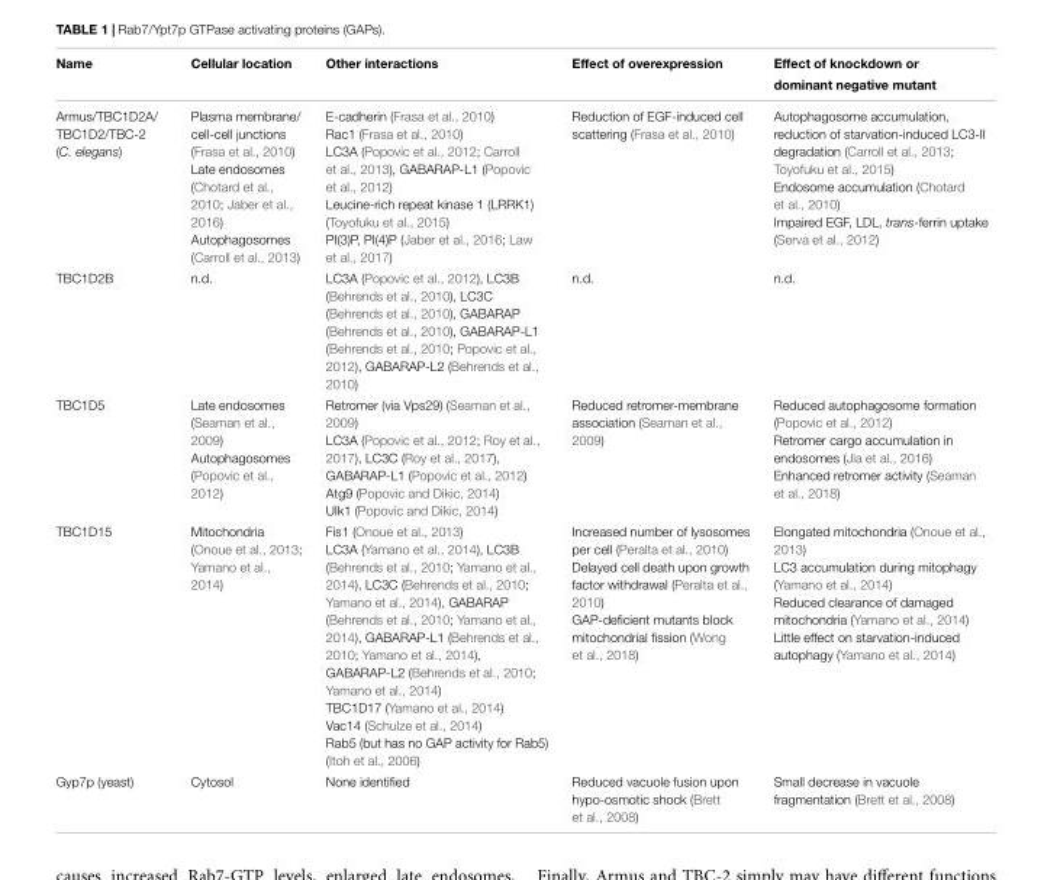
<table><thead><tr><td rowspan="2">Name</td><td rowspan="2">Cellular location</td><td rowspan="2">Other interactions</td><td rowspan="2">Effect of overexpression</td><td rowspan="2">Effect of knockdown or dominant negative mutant</td></tr><tr></tr></thead><tbody><tr><td>Armus/TBC1D2A/ TBC1D2/TBC-2 (C. elegans)</td><td>Plasma membrane/ cell-cell junctions (Frasa et al., 2010) Late endosomes (Chotard et al., 2010; Jaber et al., 2016) Autophagosomes (Carroll et al., 2013)</td><td>E-cadherin (Frasa et al., 2010) Rac1 (Frasa et al., 2010) LC3A (Popovic et al., 2012; Carroll et al., 2013), GABARAP-L1 (Popovic et al., 2012) Leucine-rich repeat kinase 1 (LRRK1) (Toyofuku et al., 2015) PI(3)P, PI(4)P (Jaber et al., 2016; Law et al., 2017)</td><td>Reduction of EGF-induced cell scattering (Frasa et al., 2010)</td><td>Autophagosome accumulation, reduction of starvation-induced LC3-II degradation (Carroll et al., 2013; Toyofuku et al., 2015) Endosome accumulation (Chotard et al., 2010) Impaired EGF, LDL, trans-ferrin uptake (Serva et al., 2012)</td></tr><tr><td>TBC1D2B</td><td>n.d.</td><td>LC3A (Popovic et al., 2012), LC3B (Behrends et al., 2010), LC3C (Behrends et al., 2010), GABARAP (Behrends et al., 2010), GABARAP-L1 (Behrends et al., 2010; Popovic et al., 2012), GABARAP-L2 (Behrends et al., 2010)</td><td>n.d.</td><td>n.d.</td></tr><tr><td>TBC1D5</td><td>Late endosomes (Seaman et al., 2009) Autophagosomes (Popovic et al., 2012)</td><td>Retromer (via Vps29) (Seaman et al., 2009) LC3A (Popovic et al., 2012; Roy et al., 2017), LC3C (Roy et al., 2017), GABARAP-L1 (Popovic et al., 2012) Atg9 (Popovic and Dikic, 2014) Ulk1 (Popovic and Dikic, 2014)</td><td>Reduced retromer-membrane association (Seaman et al., 2009)</td><td>Reduced autophagosome formation (Popovic et al., 2012) Retromer cargo accumulation in endosomes (Jia et al., 2016) Enhanced retromer activity (Seaman et al., 2018)</td></tr><tr><td>TBC1D15</td><td>Mitochondria (Onoue et al., 2013; Yamano et al., 2014)</td><td>Fis1 (Onoue et al., 2013) LC3A (Yamano et al., 2014), LC3B (Behrends et al., 2010; Yamano et al., 2014), LC3C (Behrends et al., 2010; Yamano et al., 2014), GABARAP (Behrends et al., 2010; Yamano et al., 2014), GABARAP-L1 (Behrends et al., 2010; Yamano et al., 2014), GABARAP-L2 (Behrends et al., 2010; Yamano et al., 2014) TBC1D17 (Yamano et al., 2014) Vac14 (Schulze et al., 2014) Rab5 (but has no GAP activity for Rab5) (Itoh et al., 2006)</td><td>Increased number of lysosomes per cell (Peralta et al., 2010) Delayed cell death upon growth factor withdrawal (Peralta et al., 2010) GAP-deficient mutants block mitochondrial fission (Wong et al., 2018)</td><td>Elongated mitochondria (Onoue et al., 2013) LC3 accumulation during mitophagy (Yamano et al., 2014) Reduced clearance of damaged mitochondria (Yamano et al., 2014) Little effect on starvation-induced autophagy (Yamano et al., 2014)</td></tr><tr><td>Gyp7p (yeast)</td><td>Cytosol</td><td>None identified</td><td>Reduced vacuole fusion upon hypo-osmotic shock (Brett et al., 2008)</td><td>Small decrease in vacuole fragmentation (Brett et al., 2008)</td></tr></tbody></table>